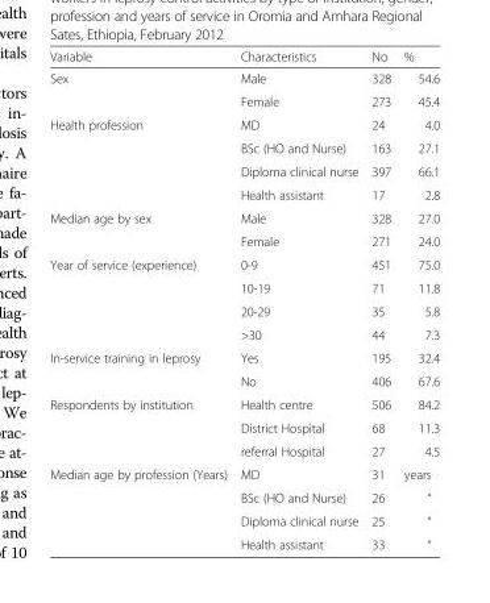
<table><thead><tr><td>Variable</td><td>Characteristics</td><td>No</td><td>%</td></tr></thead><tbody><tr><td rowspan="2">Sex</td><td>Male</td><td>328</td><td>54.6</td></tr><tr><td>Female</td><td>273</td><td>45.4</td></tr><tr><td rowspan="4">Health profession</td><td>MD</td><td>24</td><td>4.0</td></tr><tr><td>BSc (HO and Nurse)</td><td>163</td><td>27.1</td></tr><tr><td>Diploma clinical nurse</td><td>397</td><td>66.1</td></tr><tr><td>Health assistant</td><td>17</td><td>2.8</td></tr><tr><td rowspan="2">Median age by sex</td><td>Male</td><td>328</td><td>27.0</td></tr><tr><td>Female</td><td>271</td><td>24.0</td></tr><tr><td rowspan="4">Year of service (experience)</td><td>0-9</td><td>451</td><td>75.0</td></tr><tr><td>10-19</td><td>71</td><td>11.8</td></tr><tr><td>20-29</td><td>35</td><td>5.8</td></tr><tr><td>&gt;30</td><td>44</td><td>7.3</td></tr><tr><td rowspan="2">In-service training in leprosy</td><td>Yes</td><td>195</td><td>32.4</td></tr><tr><td>No</td><td>406</td><td>67.6</td></tr><tr><td rowspan="3">Respondents by institution</td><td>Health centre</td><td>506</td><td>84.2</td></tr><tr><td>District Hospital</td><td>68</td><td>11.3</td></tr><tr><td>referral Hospital</td><td>27</td><td>4.5</td></tr><tr><td rowspan="4">Median age by profession (Years)</td><td>MD</td><td>31</td><td>years</td></tr><tr><td>BSc (HO and Nurse)</td><td>26</td><td>“</td></tr><tr><td>Diploma clinical nurse</td><td>25</td><td>“</td></tr><tr><td>Health assistant</td><td>33</td><td>“</td></tr></tbody></table>